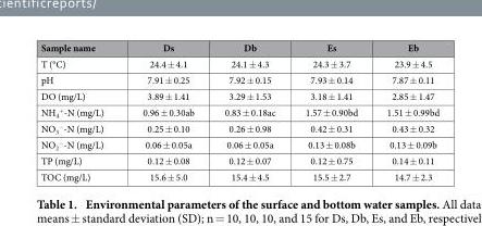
<table><thead><tr><td>Sample name</td><td>Ds</td><td>Db</td><td>Es</td><td>Eb</td></tr></thead><tbody><tr><td>T (°C)</td><td>24.4 ± 4.1</td><td>24.1 ± 4.3</td><td>24.3 ± 3.7</td><td>23.9 ± 4.5</td></tr><tr><td>pH</td><td>7.91 ± 0.25</td><td>7.92 ± 0.15</td><td>7.93 ± 0.14</td><td>7.87 ± 0.11</td></tr><tr><td>DO (mg/L)</td><td>3.89 ± 1.41</td><td>3.29 ± 1.53</td><td>3.18 ± 1.41</td><td>2.85 ± 1.47</td></tr><tr><td>NH<sub>4</sub> <sup>+</sup>-N (mg/L)</td><td>0.96 ± 0.30ab</td><td>0.83 ± 0.18ac</td><td>1.57 ± 0.90bd</td><td>1.51 ± 0.99bd</td></tr><tr><td>NO<sub>3</sub> <sup>−</sup>-N (mg/L)</td><td>0.25 ± 0.10</td><td>0.26 ± 0.98</td><td>0.42 ± 0.31</td><td>0.43 ± 0.32</td></tr><tr><td>NO<sub>2</sub> <sup>−</sup>-N (mg/L)</td><td>0.06 ± 0.05a</td><td>0.06 ± 0.05a</td><td>0.13 ± 0.08b</td><td>0.13 ± 0.09b</td></tr><tr><td>TP (mg/L)</td><td>0.12 ± 0.08</td><td>0.12 ± 0.07</td><td>0.12 ± 0.75</td><td>0.14 ± 0.11</td></tr><tr><td>TOC (mg/L)</td><td>15.6 ± 5.0</td><td>15.4 ± 4.5</td><td>15.5 ± 2.7</td><td>14.7 ± 2.3</td></tr></tbody></table>